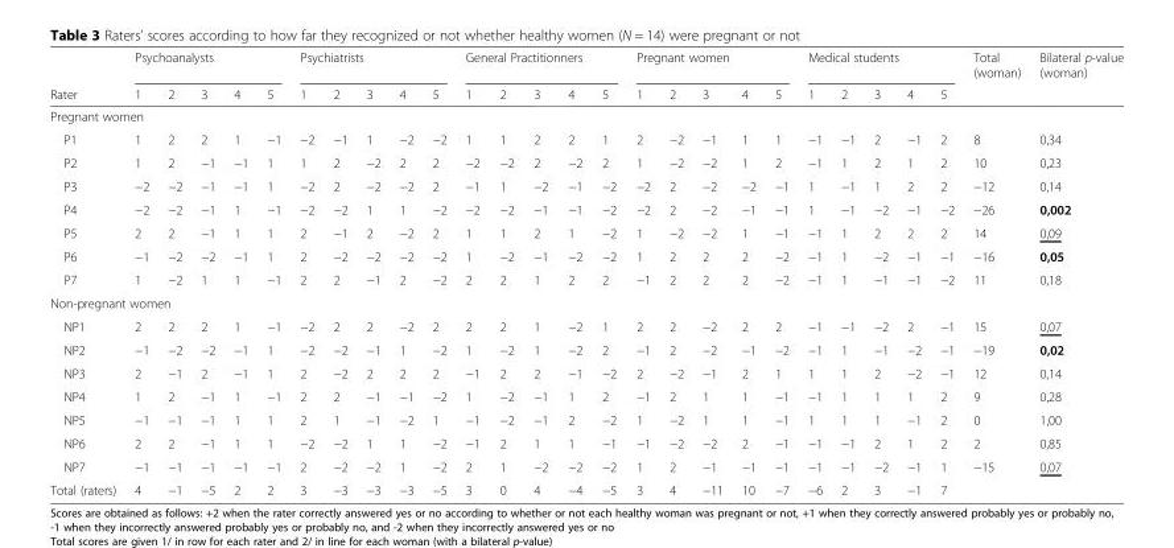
<table><thead><tr><td rowspan="2">Rater</td><td colspan="5">Psychoanalysts</td><td colspan="5">Psychiatrists</td><td colspan="5">General Practitionners</td><td colspan="5">Pregnant women</td><td colspan="5">Medical students</td><td rowspan="2">Total (woman)</td><td rowspan="2">Bilateral p-value (woman)</td></tr><tr><td>1</td><td>2</td><td>3</td><td>4</td><td>5</td><td>1</td><td>2</td><td>3</td><td>4</td><td>5</td><td>1</td><td>2</td><td>3</td><td>4</td><td>5</td><td>1</td><td>2</td><td>3</td><td>4</td><td>5</td><td>1</td><td>2</td><td>3</td><td>4</td><td>5</td></tr></thead><tbody><tr><td colspan="28">Pregnant women</td></tr><tr><td>P1</td><td>1</td><td>2</td><td>2</td><td>1</td><td>−1</td><td>−2</td><td>−1</td><td>1</td><td>−2</td><td>−2</td><td>1</td><td>1</td><td>2</td><td>2</td><td>1</td><td>2</td><td>−2</td><td>−1</td><td>1</td><td>1</td><td>−1</td><td>−1</td><td>2</td><td>−1</td><td>2</td><td>8</td><td>0,34</td></tr><tr><td>P2</td><td>1</td><td>2</td><td>−1</td><td>−1</td><td>1</td><td>1</td><td>2</td><td>−2</td><td>2</td><td>2</td><td>−2</td><td>−2</td><td>2</td><td>−2</td><td>2</td><td>1</td><td>−2</td><td>−2</td><td>1</td><td>2</td><td>−1</td><td>1</td><td>2</td><td>1</td><td>2</td><td>10</td><td>0,23</td></tr><tr><td>P3</td><td>−2</td><td>−2</td><td>−1</td><td>−1</td><td>1</td><td>−2</td><td>2</td><td>−2</td><td>−2</td><td>2</td><td>−1</td><td>1</td><td>−2</td><td>−1</td><td>−2</td><td>−2</td><td>2</td><td>−2</td><td>−2</td><td>−1</td><td>1</td><td>−1</td><td>1</td><td>2</td><td>2</td><td>−12</td><td>0,14</td></tr><tr><td>P4</td><td>−2</td><td>−2</td><td>−1</td><td>1</td><td>−1</td><td>−2</td><td>−2</td><td>1</td><td>1</td><td>−2</td><td>−2</td><td>−2</td><td>−1</td><td>−1</td><td>−2</td><td>−2</td><td>2</td><td>−2</td><td>−1</td><td>−1</td><td>1</td><td>−1</td><td>−2</td><td>−1</td><td>−2</td><td>−26</td><td>0,002</td></tr><tr><td>P5</td><td>2</td><td>2</td><td>−1</td><td>1</td><td>1</td><td>2</td><td>−1</td><td>2</td><td>−2</td><td>2</td><td>1</td><td>1</td><td>2</td><td>1</td><td>−2</td><td>1</td><td>−2</td><td>−2</td><td>1</td><td>−1</td><td>−1</td><td>1</td><td>2</td><td>2</td><td>2</td><td>14</td><td>0,09</td></tr><tr><td>P6</td><td>−1</td><td>−2</td><td>−2</td><td>−1</td><td>1</td><td>2</td><td>−2</td><td>−2</td><td>−2</td><td>−2</td><td>1</td><td>−2</td><td>−1</td><td>−2</td><td>−2</td><td>1</td><td>2</td><td>2</td><td>2</td><td>−2</td><td>−1</td><td>1</td><td>−2</td><td>−1</td><td>−1</td><td>−16</td><td>0,05</td></tr><tr><td>P7</td><td>1</td><td>−2</td><td>1</td><td>1</td><td>−1</td><td>2</td><td>2</td><td>−1</td><td>2</td><td>−2</td><td>2</td><td>2</td><td>1</td><td>2</td><td>2</td><td>−1</td><td>2</td><td>2</td><td>2</td><td>−2</td><td>−1</td><td>1</td><td>−1</td><td>−1</td><td>−2</td><td>11</td><td>0,18</td></tr><tr><td colspan="28">Non-pregnant women</td></tr><tr><td>NP1</td><td>2</td><td>2</td><td>2</td><td>1</td><td>−1</td><td>−2</td><td>2</td><td>2</td><td>−2</td><td>2</td><td>2</td><td>2</td><td>1</td><td>−2</td><td>1</td><td>2</td><td>2</td><td>−2</td><td>2</td><td>2</td><td>−1</td><td>−1</td><td>−2</td><td>2</td><td>−1</td><td>15</td><td>0,07</td></tr><tr><td>NP2</td><td>−1</td><td>−2</td><td>−2</td><td>−1</td><td>1</td><td>−2</td><td>−2</td><td>−1</td><td>1</td><td>−2</td><td>1</td><td>−2</td><td>1</td><td>−2</td><td>2</td><td>−1</td><td>2</td><td>−2</td><td>−1</td><td>−2</td><td>−1</td><td>1</td><td>−1</td><td>−2</td><td>−1</td><td>−19</td><td>0,02</td></tr><tr><td>NP3</td><td>2</td><td>−1</td><td>2</td><td>−1</td><td>1</td><td>2</td><td>−2</td><td>2</td><td>2</td><td>2</td><td>−1</td><td>2</td><td>2</td><td>−1</td><td>−2</td><td>2</td><td>−2</td><td>−1</td><td>2</td><td>1</td><td>1</td><td>1</td><td>2</td><td>−2</td><td>−1</td><td>12</td><td>0,14</td></tr><tr><td>NP4</td><td>1</td><td>2</td><td>−1</td><td>1</td><td>−1</td><td>2</td><td>2</td><td>−1</td><td>−1</td><td>−2</td><td>1</td><td>−2</td><td>−1</td><td>1</td><td>2</td><td>−1</td><td>2</td><td>1</td><td>1</td><td>−1</td><td>−1</td><td>1</td><td>1</td><td>1</td><td>2</td><td>9</td><td>0,28</td></tr><tr><td>NP5</td><td>−1</td><td>−1</td><td>−1</td><td>1</td><td>1</td><td>2</td><td>1</td><td>−1</td><td>−2</td><td>1</td><td>−1</td><td>−2</td><td>−1</td><td>2</td><td>−2</td><td>1</td><td>−2</td><td>1</td><td>1</td><td>−1</td><td>1</td><td>1</td><td>1</td><td>−1</td><td>2</td><td>0</td><td>1,00</td></tr><tr><td>NP6</td><td>2</td><td>2</td><td>−1</td><td>1</td><td>1</td><td>−2</td><td>−2</td><td>1</td><td>1</td><td>−2</td><td>−1</td><td>2</td><td>1</td><td>1</td><td>−1</td><td>−1</td><td>−2</td><td>−2</td><td>2</td><td>−1</td><td>−1</td><td>−1</td><td>2</td><td>1</td><td>2</td><td>2</td><td>0,85</td></tr><tr><td>NP7</td><td>−1</td><td>−1</td><td>−1</td><td>−1</td><td>−1</td><td>2</td><td>−2</td><td>−2</td><td>1</td><td>−2</td><td>2</td><td>1</td><td>−2</td><td>−2</td><td>−2</td><td>1</td><td>2</td><td>−1</td><td>−1</td><td>−1</td><td>−1</td><td>−1</td><td>−2</td><td>−1</td><td>1</td><td>−15</td><td>0,07</td></tr><tr><td>Total (raters)</td><td>4</td><td>−1</td><td>−5</td><td>2</td><td>2</td><td>3</td><td>−3</td><td>−3</td><td>−3</td><td>−5</td><td>3</td><td>0</td><td>4</td><td>−4</td><td>−5</td><td>3</td><td>4</td><td>−11</td><td>10</td><td>−7</td><td>−6</td><td>2</td><td>3</td><td>−1</td><td>7</td><td></td><td></td></tr></tbody></table>